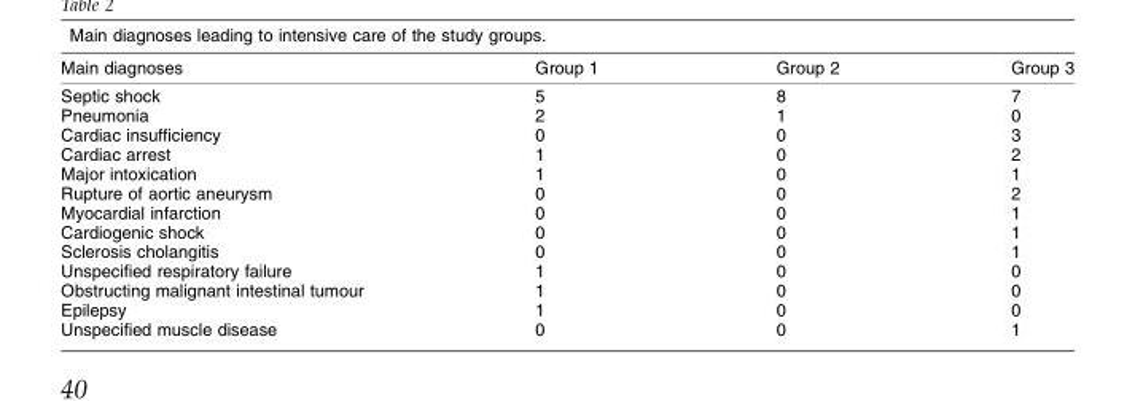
<table><thead><tr><td>Main diagnoses</td><td>Group 1</td><td>Group 2</td><td>Group 3</td></tr></thead><tbody><tr><td>Septic shock</td><td>5</td><td>8</td><td>7</td></tr><tr><td>Pneumonia</td><td>2</td><td>1</td><td>0</td></tr><tr><td>Cardiac insufficiency</td><td>0</td><td>0</td><td>3</td></tr><tr><td>Cardiac arrest</td><td>1</td><td>0</td><td>2</td></tr><tr><td>Major intoxication</td><td>1</td><td>0</td><td>1</td></tr><tr><td>Rupture of aortic aneurysm</td><td>0</td><td>0</td><td>2</td></tr><tr><td>Myocardial infarction</td><td>0</td><td>0</td><td>1</td></tr><tr><td>Cardiogenic shock</td><td>0</td><td>0</td><td>1</td></tr><tr><td>Sclerosis cholangitis</td><td>0</td><td>0</td><td>1</td></tr><tr><td>Unspecified respiratory failure</td><td>1</td><td>0</td><td>0</td></tr><tr><td>Obstructing malignant intestinal tumour</td><td>1</td><td>0</td><td>0</td></tr><tr><td>Epilepsy</td><td>1</td><td>0</td><td>0</td></tr><tr><td>Unspecified muscle disease</td><td>0</td><td>0</td><td>1</td></tr></tbody></table>